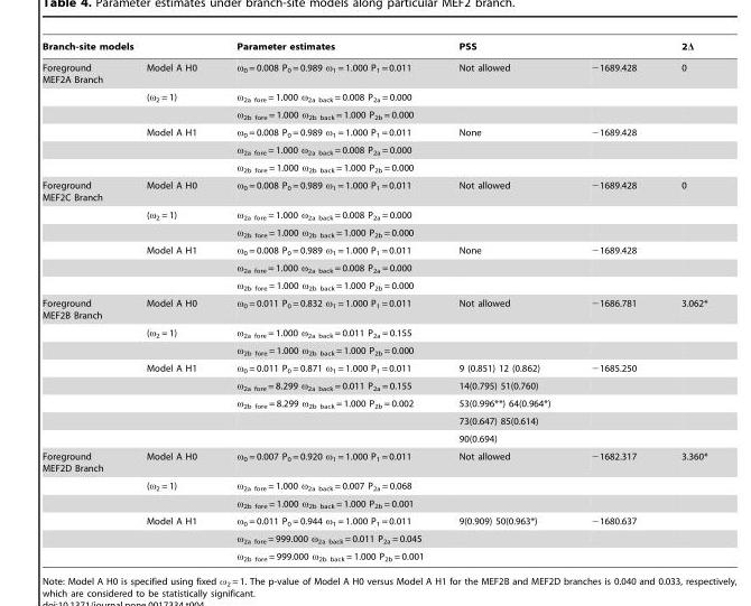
<table><thead><tr><td colspan="2">Branch-site models</td><td rowspan="2">Parameter estimates ω<sub>0</sub> = 0.008 P<sub>0</sub> = 0.989 ω<sub>1</sub> = 1.000 P<sub>1</sub> = 0.011</td><td rowspan="2">PSS Not allowed</td><td rowspan="2">−1689.428</td><td rowspan="2">2Δ 0</td></tr><tr><td>Foreground MEF2A Branch</td><td>Model A H0</td></tr></thead><tbody><tr><td></td><td>(ω<sub>2</sub> = 1)</td><td>ω<sub>2a fore</sub> = 1.000 ω<sub>2a back</sub> = 0.008 P<sub>2a</sub> = 0.000</td><td></td><td></td><td></td></tr><tr><td></td><td></td><td>ω<sub>2b fore</sub> = 1.000 ω<sub>2b back</sub> = 1.000 P<sub>2b</sub> = 0.000</td><td></td><td></td><td></td></tr><tr><td></td><td>Model A H1</td><td>ω<sub>0</sub> = 0.008 P<sub>0</sub> = 0.989 ω<sub>1</sub> = 1.000 P<sub>1</sub> = 0.011</td><td>None</td><td>−1689.428</td><td></td></tr><tr><td></td><td></td><td>ω<sub>2a fore</sub> = 1.000 ω<sub>2a back</sub> = 0.008 P<sub>2a</sub> = 0.000</td><td></td><td></td><td></td></tr><tr><td></td><td></td><td>ω<sub>2b fore</sub> = 1.000 ω<sub>2b back</sub> = 1.000 P<sub>2b</sub> = 0.000</td><td></td><td></td><td></td></tr><tr><td rowspan="6">Foreground MEF2C Branch</td><td>Model A H0</td><td>ω<sub>0</sub> = 0.008 P<sub>0</sub> = 0.989 ω<sub>1</sub> = 1.000 P<sub>1</sub> = 0.011</td><td>Not allowed</td><td>−1689.428</td><td>0</td></tr><tr><td>(ω<sub>2</sub> = 1)</td><td>ω<sub>2a fore</sub> = 1.000 ω<sub>2a back</sub> = 0.008 P<sub>2a</sub> = 0.000</td><td></td><td></td><td></td></tr><tr><td></td><td>ω<sub>2b fore</sub> = 1.000 ω<sub>2b back</sub> = 1.000 P<sub>2b</sub> = 0.000</td><td></td><td></td><td></td></tr><tr><td>Model A H1</td><td>ω<sub>0</sub> = 0.008 P<sub>0</sub> = 0.989 ω<sub>1</sub> = 1.000 P<sub>1</sub> = 0.011</td><td>None</td><td>−1689.428</td><td></td></tr><tr><td></td><td>ω<sub>2a fore</sub> = 1.000 ω<sub>2a back</sub> = 0.008 P<sub>2a</sub> = 0.000</td><td></td><td></td><td></td></tr><tr><td></td><td>ω<sub>2b fore</sub> = 1.000 ω<sub>2b back</sub> = 1.000 P<sub>2b</sub> = 0.000</td><td></td><td></td><td></td></tr><tr><td rowspan="8">Foreground MEF2B Branch</td><td>Model A H0</td><td>ω<sub>0</sub> = 0.011 P<sub>0</sub> = 0.832 ω<sub>1</sub> = 1.000 P<sub>1</sub> = 0.011</td><td>Not allowed</td><td>−1686.781</td><td>3.062*</td></tr><tr><td>(ω<sub>2</sub> = 1)</td><td>ω<sub>2a fore</sub> = 1.000 ω<sub>2a back</sub> = 0.011 P<sub>2a</sub> = 0.155</td><td></td><td></td><td></td></tr><tr><td></td><td>ω<sub>2b fore</sub> = 1.000 ω<sub>2b back</sub> = 1.000 P<sub>2b</sub> = 0.000</td><td></td><td></td><td></td></tr><tr><td>Model A H1</td><td>ω<sub>0</sub> = 0.011 P<sub>0</sub> = 0.871 ω<sub>1</sub> = 1.000 P<sub>1</sub> = 0.011</td><td>9 (0.851) 12 (0.862)</td><td>−1685.250</td><td></td></tr><tr><td></td><td>ω<sub>2a fore</sub> = 8.299 ω<sub>2a back</sub> = 0.011 P<sub>2a</sub> = 0.155</td><td>14(0.795) 51(0.760)</td><td></td><td></td></tr><tr><td></td><td>ω<sub>2b fore</sub> = 8.299 ω<sub>2b back</sub> = 1.000 P<sub>2b</sub> = 0.002</td><td>53(0.996**) 64(0.964*)</td><td></td><td></td></tr><tr><td></td><td></td><td>73(0.647) 85(0.614)</td><td></td><td></td></tr><tr><td></td><td></td><td>90(0.694)</td><td></td><td></td></tr><tr><td rowspan="6">Foreground MEF2D Branch</td><td>Model A H0</td><td>ω<sub>0</sub> = 0.007 P<sub>0</sub> = 0.920 ω<sub>1</sub> = 1.000 P<sub>1</sub> = 0.011</td><td>Not allowed</td><td>−1682.317</td><td>3.360*</td></tr><tr><td>(ω<sub>2</sub> = 1)</td><td>ω<sub>2a fore</sub> = 1.000 ω<sub>2a back</sub> = 0.007 P<sub>2a</sub> = 0.068</td><td></td><td></td><td></td></tr><tr><td></td><td>ω<sub>2b fore</sub> = 1.000 ω<sub>2b back</sub> = 1.000 P<sub>2b</sub> = 0.001</td><td></td><td></td><td></td></tr><tr><td>Model A H1</td><td>ω<sub>0</sub> = 0.011 P<sub>0</sub> = 0.944 ω<sub>1</sub> = 1.000 P<sub>1</sub> = 0.011</td><td>9(0.909) 50(0.963*)</td><td>−1680.637</td><td></td></tr><tr><td></td><td>ω<sub>2a fore</sub> = 999.000 ω<sub>2a back</sub> = 0.011 P<sub>2a</sub> = 0.045</td><td></td><td></td><td></td></tr><tr><td></td><td>ω<sub>2b fore</sub> = 999.000 ω<sub>2b back</sub> = 1.000 P<sub>2b</sub> = 0.001</td><td></td><td></td><td></td></tr></tbody></table>